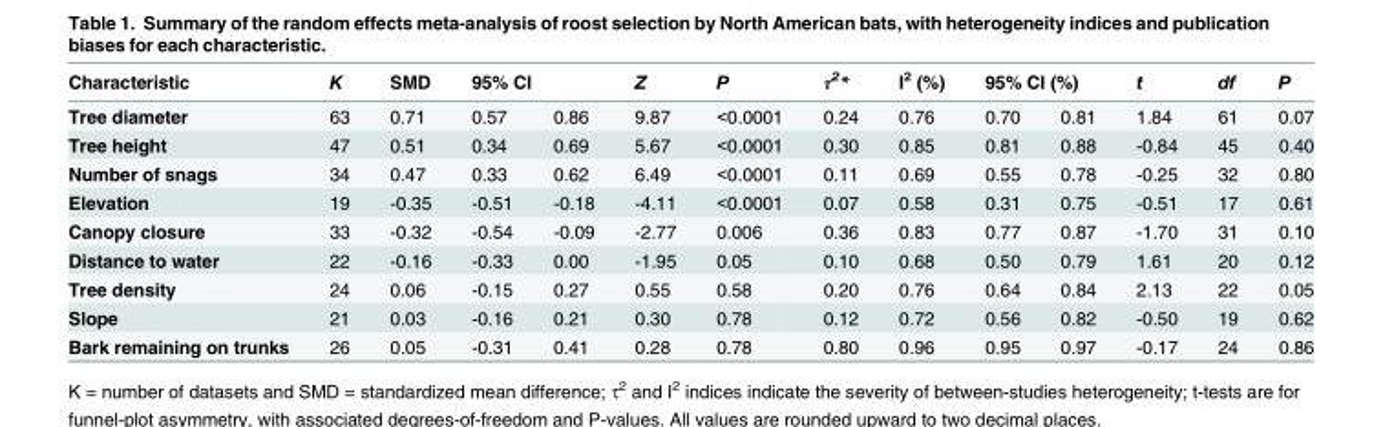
<table><thead><tr><td rowspan="2">Characteristic Tree diameter</td><td rowspan="2">K 63</td><td rowspan="2">SMD 0.71</td><td colspan="2">95% CI</td><td rowspan="2">Z 9.87</td><td rowspan="2">P &lt;0.0001</td><td rowspan="2">τ<sup>2</sup>* 0.24</td><td rowspan="2">I<sup>2</sup> (%) 0.76</td><td colspan="2">95% CI (%)</td><td rowspan="2">t 1.84</td><td rowspan="2">df 61</td><td rowspan="2">P 0.07</td></tr><tr><td>0.57</td><td>0.86</td><td>0.70</td><td>0.81</td></tr></thead><tbody><tr><td>Tree height</td><td>47</td><td>0.51</td><td>0.34</td><td>0.69</td><td>5.67</td><td>&lt;0.0001</td><td>0.30</td><td>0.85</td><td>0.81</td><td>0.88</td><td>-0.84</td><td>45</td><td>0.40</td></tr><tr><td>Number of snags</td><td>34</td><td>0.47</td><td>0.33</td><td>0.62</td><td>6.49</td><td>&lt;0.0001</td><td>0.11</td><td>0.69</td><td>0.55</td><td>0.78</td><td>-0.25</td><td>32</td><td>0.80</td></tr><tr><td>Elevation</td><td>19</td><td>-0.35</td><td>-0.51</td><td>-0.18</td><td>-4.11</td><td>&lt;0.0001</td><td>0.07</td><td>0.58</td><td>0.31</td><td>0.75</td><td>-0.51</td><td>17</td><td>0.61</td></tr><tr><td>Canopy closure</td><td>33</td><td>-0.32</td><td>-0.54</td><td>-0.09</td><td>-2.77</td><td>0.006</td><td>0.36</td><td>0.83</td><td>0.77</td><td>0.87</td><td>-1.70</td><td>31</td><td>0.10</td></tr><tr><td>Distance to water</td><td>22</td><td>-0.16</td><td>-0.33</td><td>0.00</td><td>-1.95</td><td>0.05</td><td>0.10</td><td>0.68</td><td>0.50</td><td>0.79</td><td>1.61</td><td>20</td><td>0.12</td></tr><tr><td>Tree density</td><td>24</td><td>0.06</td><td>-0.15</td><td>0.27</td><td>0.55</td><td>0.58</td><td>0.20</td><td>0.76</td><td>0.64</td><td>0.84</td><td>2.13</td><td>22</td><td>0.05</td></tr><tr><td>Slope</td><td>21</td><td>0.03</td><td>-0.16</td><td>0.21</td><td>0.30</td><td>0.78</td><td>0.12</td><td>0.72</td><td>0.56</td><td>0.82</td><td>-0.50</td><td>19</td><td>0.62</td></tr><tr><td>Bark remaining on trunks</td><td>26</td><td>0.05</td><td>-0.31</td><td>0.41</td><td>0.28</td><td>0.78</td><td>0.80</td><td>0.96</td><td>0.95</td><td>0.97</td><td>-0.17</td><td>24</td><td>0.86</td></tr></tbody></table>